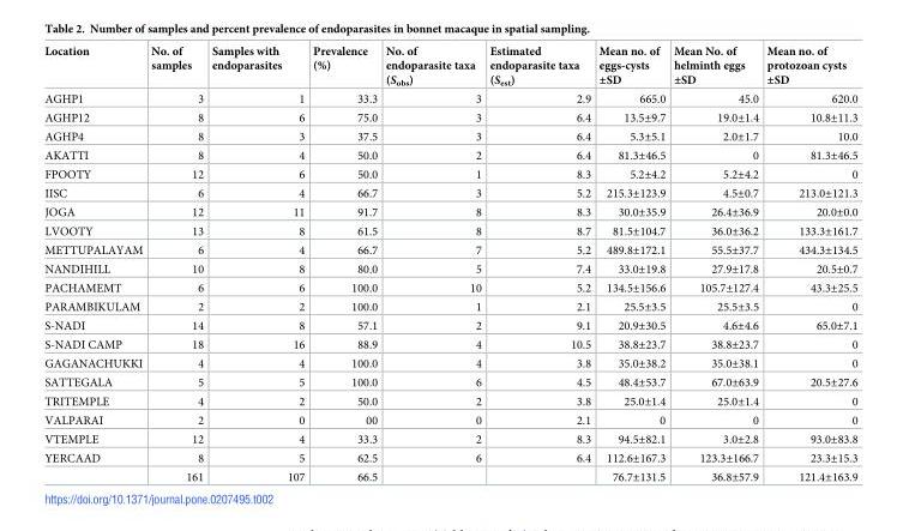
<table><thead><tr><td>Location</td><td>No. of samples</td><td>Samples with endoparasites</td><td>Prevalence (%)</td><td>No. of endoparasite taxa (S<sub>obs</sub>)</td><td>Estimated endoparasite taxa (S<sub>est</sub>)</td><td>Mean no. of eggs-cysts ±SD</td><td>Mean No. of helminth eggs ±SD</td><td>Mean no. of protozoan cysts ±SD</td></tr></thead><tbody><tr><td>AGHP1</td><td>3</td><td>1</td><td>33.3</td><td>3</td><td>2.9</td><td>665.0</td><td>45.0</td><td>620.0</td></tr><tr><td>AGHP12</td><td>8</td><td>6</td><td>75.0</td><td>3</td><td>6.4</td><td>13.5±9.7</td><td>19.0±1.4</td><td>10.8±11.3</td></tr><tr><td>AGHP4</td><td>8</td><td>3</td><td>37.5</td><td>3</td><td>6.4</td><td>5.3±5.1</td><td>2.0±1.7</td><td>10.0</td></tr><tr><td>AKATTI</td><td>8</td><td>4</td><td>50.0</td><td>2</td><td>6.4</td><td>81.3±46.5</td><td>0</td><td>81.3±46.5</td></tr><tr><td>FPOOTY</td><td>12</td><td>6</td><td>50.0</td><td>1</td><td>8.3</td><td>5.2±4.2</td><td>5.2±4.2</td><td>0</td></tr><tr><td>IISC</td><td>6</td><td>4</td><td>66.7</td><td>3</td><td>5.2</td><td>215.3±123.9</td><td>4.5±0.7</td><td>213.0±121.3</td></tr><tr><td>JOGA</td><td>12</td><td>11</td><td>91.7</td><td>8</td><td>8.3</td><td>30.0±35.9</td><td>26.4±36.9</td><td>20.0±0.0</td></tr><tr><td>LVOOTY</td><td>13</td><td>8</td><td>61.5</td><td>8</td><td>8.7</td><td>81.5±104.7</td><td>36.0±36.2</td><td>133.3±161.7</td></tr><tr><td>METTUPALAYAM</td><td>6</td><td>4</td><td>66.7</td><td>7</td><td>5.2</td><td>489.8±172.1</td><td>55.5±37.7</td><td>434.3±134.5</td></tr><tr><td>NANDIHILL</td><td>10</td><td>8</td><td>80.0</td><td>5</td><td>7.4</td><td>33.0±19.8</td><td>27.9±17.8</td><td>20.5±0.7</td></tr><tr><td>PACHAMEMT</td><td>6</td><td>6</td><td>100.0</td><td>10</td><td>5.2</td><td>134.5±156.6</td><td>105.7±127.4</td><td>43.3±25.5</td></tr><tr><td>PARAMBIKULAM</td><td>2</td><td>2</td><td>100.0</td><td>1</td><td>2.1</td><td>25.5±3.5</td><td>25.5±3.5</td><td>0</td></tr><tr><td>S-NADI</td><td>14</td><td>8</td><td>57.1</td><td>2</td><td>9.1</td><td>20.9±30.5</td><td>4.6±4.6</td><td>65.0±7.1</td></tr><tr><td>S-NADI CAMP</td><td>18</td><td>16</td><td>88.9</td><td>4</td><td>10.5</td><td>38.8±23.7</td><td>38.8±23.7</td><td>0</td></tr><tr><td>GAGANACHUKKI</td><td>4</td><td>4</td><td>100.0</td><td>4</td><td>3.8</td><td>35.0±38.2</td><td>35.0±38.1</td><td>0</td></tr><tr><td>SATTEGALA</td><td>5</td><td>5</td><td>100.0</td><td>6</td><td>4.5</td><td>48.4±53.7</td><td>67.0±63.9</td><td>20.5±27.6</td></tr><tr><td>TRITEMPLE</td><td>4</td><td>2</td><td>50.0</td><td>2</td><td>3.8</td><td>25.0±1.4</td><td>25.0±1.4</td><td>0</td></tr><tr><td>VALPARAI</td><td>2</td><td>0</td><td>00</td><td>0</td><td>2.1</td><td>0</td><td>0</td><td>0</td></tr><tr><td>VTEMPLE</td><td>12</td><td>4</td><td>33.3</td><td>2</td><td>8.3</td><td>94.5±82.1</td><td>3.0±2.8</td><td>93.0±83.8</td></tr><tr><td rowspan="2">YERCAAD</td><td>8</td><td>5</td><td>62.5</td><td>6</td><td>6.4</td><td>112.6±167.3</td><td>123.3±166.7</td><td>23.3±15.3</td></tr><tr><td>161</td><td>107</td><td>66.5</td><td></td><td></td><td>76.7±131.5</td><td>36.8±57.9</td><td>121.4±163.9</td></tr></tbody></table>